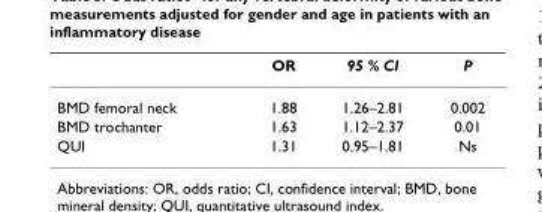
<table><thead><tr><td></td><td>OR</td><td>95 % CI</td><td>P</td></tr></thead><tbody><tr><td>BMD femoral neck</td><td>1.88</td><td>1.26–2.81</td><td>0.002</td></tr><tr><td>BMD trochanter</td><td>1.63</td><td>1.12–2.37</td><td>0.01</td></tr><tr><td>QUI</td><td>1.31</td><td>0.95–1.81</td><td>Ns</td></tr></tbody></table>